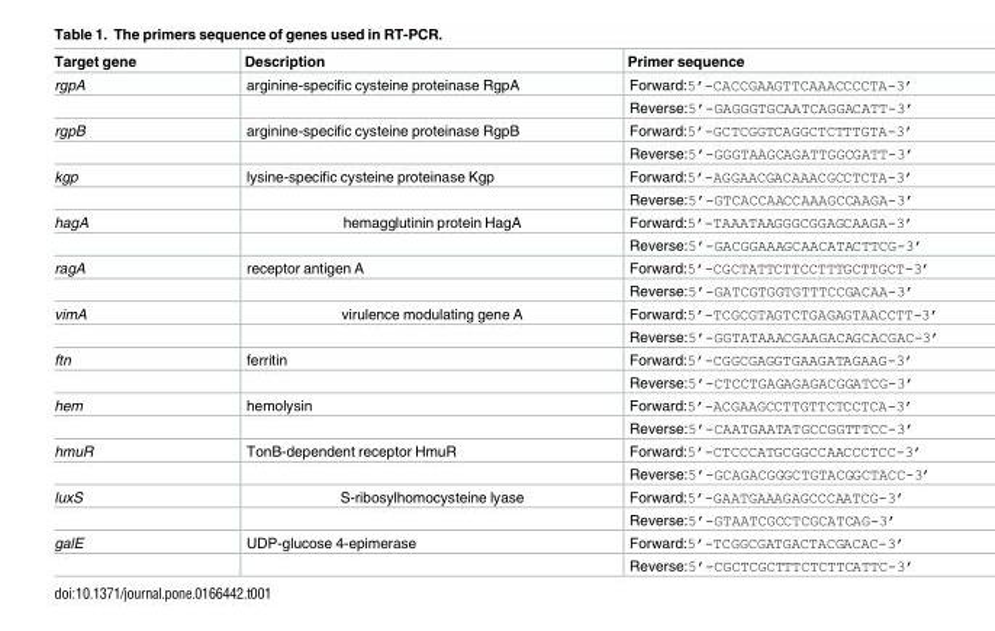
<table><thead><tr><td>Target gene</td><td>Description</td><td>Primer sequence</td></tr></thead><tbody><tr><td rowspan="2">rgpA</td><td>arginine-specific cysteine proteinase RgpA</td><td>Forward:5’-CACCGAAGTTCAAACCCCTA-3’</td></tr><tr><td></td><td>Reverse:5’-GAGGGTGCAATCAGGACATT-3’</td></tr><tr><td rowspan="2">rgpB</td><td>arginine-specific cysteine proteinase RgpB</td><td>Forward:5’-GCTCGGTCAGGCTCTTTGTA-3’</td></tr><tr><td></td><td>Reverse:5’-GGGTAAGCAGATTGGCGATT-3’</td></tr><tr><td rowspan="2">kgp</td><td>lysine-specific cysteine proteinase Kgp</td><td>Forward:5’-AGGAACGACAAACGCCTCTA-3’</td></tr><tr><td></td><td>Reverse:5’-GTCACCAACCAAAGCCAAGA-3’</td></tr><tr><td rowspan="2">hagA</td><td>hemagglutinin protein HagA</td><td>Forward:5’-TAAATAAGGGCGGAGCAAGA-3’</td></tr><tr><td></td><td>Reverse:5’-GACGGAAAGCAACATACTTCG-3’</td></tr><tr><td rowspan="2">ragA</td><td>receptor antigen A</td><td>Forward:5’-CGCTATTCTTCCTTTGCTTGCT-3’</td></tr><tr><td></td><td>Reverse:5’-GATCGTGGTGTTTCCGACAA-3’</td></tr><tr><td rowspan="2">vimA</td><td>virulence modulating gene A</td><td>Forward:5’-TCGCGTAGTCTGAGAGTAACCTT-3’</td></tr><tr><td></td><td>Reverse:5’-GGTATAAACGAAGACAGCACGAC-3’</td></tr><tr><td rowspan="2">ftn</td><td>ferritin</td><td>Forward:5’-CGGCGAGGTGAAGATAGAAG-3’</td></tr><tr><td></td><td>Reverse:5’-CTCCTGAGAGAGACGGATCG-3’</td></tr><tr><td rowspan="2">hem</td><td>hemolysin</td><td>Forward:5’-ACGAAGCCTTGTTCTCCTCA-3’</td></tr><tr><td></td><td>Reverse:5’-CAATGAATATGCCGGTTTCC-3’</td></tr><tr><td rowspan="2">hmuR</td><td>TonB-dependent receptor HmuR</td><td>Forward:5’-CTCCCATGCGGCCAACCCTCC-3’</td></tr><tr><td></td><td>Reverse:5’-GCAGACGGGCTGTACGGCTACC-3’</td></tr><tr><td rowspan="2">luxS</td><td>S-ribosylhomocysteine lyase</td><td>Forward:5’-GAATGAAAGAGCCCAATCG-3’</td></tr><tr><td></td><td>Reverse:5’-GTAATCGCCTCGCATCAG-3’</td></tr><tr><td rowspan="2">galE</td><td>UDP-glucose 4-epimerase</td><td>Forward:5’-TCGGCGATGACTACGACAC-3’</td></tr><tr><td></td><td>Reverse:5’-CGCTCGCTTTCTCTTCATTC-3’</td></tr></tbody></table>